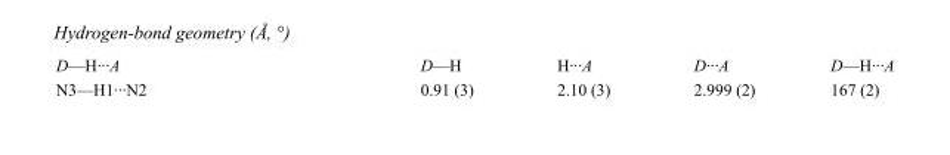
<table><tbody><tr><td>D—H···A</td><td>D—H</td><td>H···A</td><td>D···A</td><td>D—H···A</td></tr><tr><td>N3—H1···N2</td><td>0.91 (3)</td><td>2.10 (3)</td><td>2.999 (2)</td><td>167 (2)</td></tr></tbody></table>